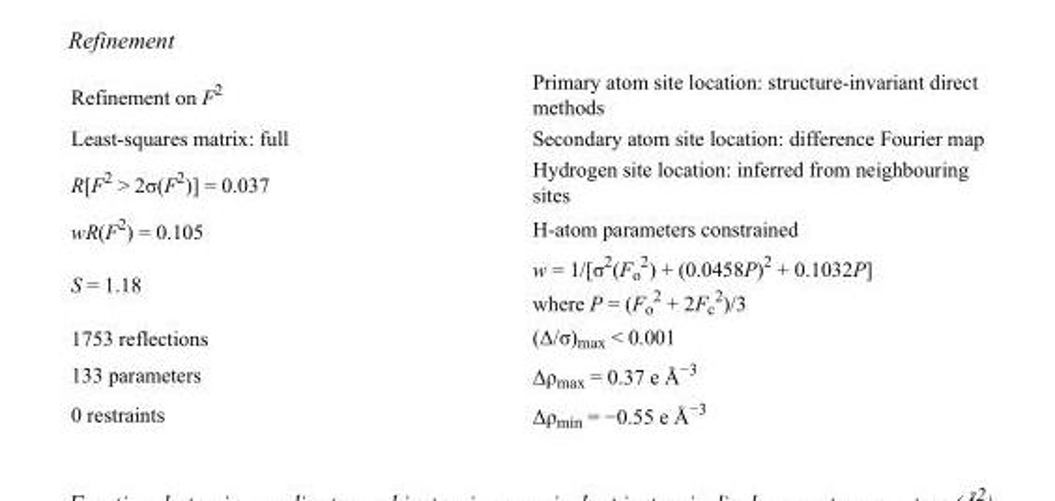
<table><tbody><tr><td>Refinement on F<sup>2</sup></td><td>Primary atom site location: structure-invariant direct methods</td></tr><tr><td>Least-squares matrix: full</td><td>Secondary atom site location: difference Fourier map</td></tr><tr><td>R[F<sup>2</sup> &gt; 2σ(F<sup>2</sup>)] = 0.037</td><td>Hydrogen site location: inferred from neighbouring sites</td></tr><tr><td>wR(F<sup>2</sup>) = 0.105</td><td>H-atom parameters constrained</td></tr><tr><td>S = 1.18</td><td>w = 1/[σ<sup>2</sup>(F<sub>o</sub> <sup>2</sup>) + (0.0458P)<sup>2</sup> + 0.1032P] where P = (F<sub>o</sub> <sup>2</sup> + 2F<sub>c</sub> <sup>2</sup>)/3</td></tr><tr><td>1753 reflections</td><td>(Δ/σ)<sub>max</sub> &lt; 0.001</td></tr><tr><td>133 parameters</td><td>Δρ<sub>max</sub> = 0.37 e Å<sup>−3</sup></td></tr><tr><td>0 restraints</td><td>Δρ<sub>min</sub> = −0.55 e Å<sup>−3</sup></td></tr></tbody></table>